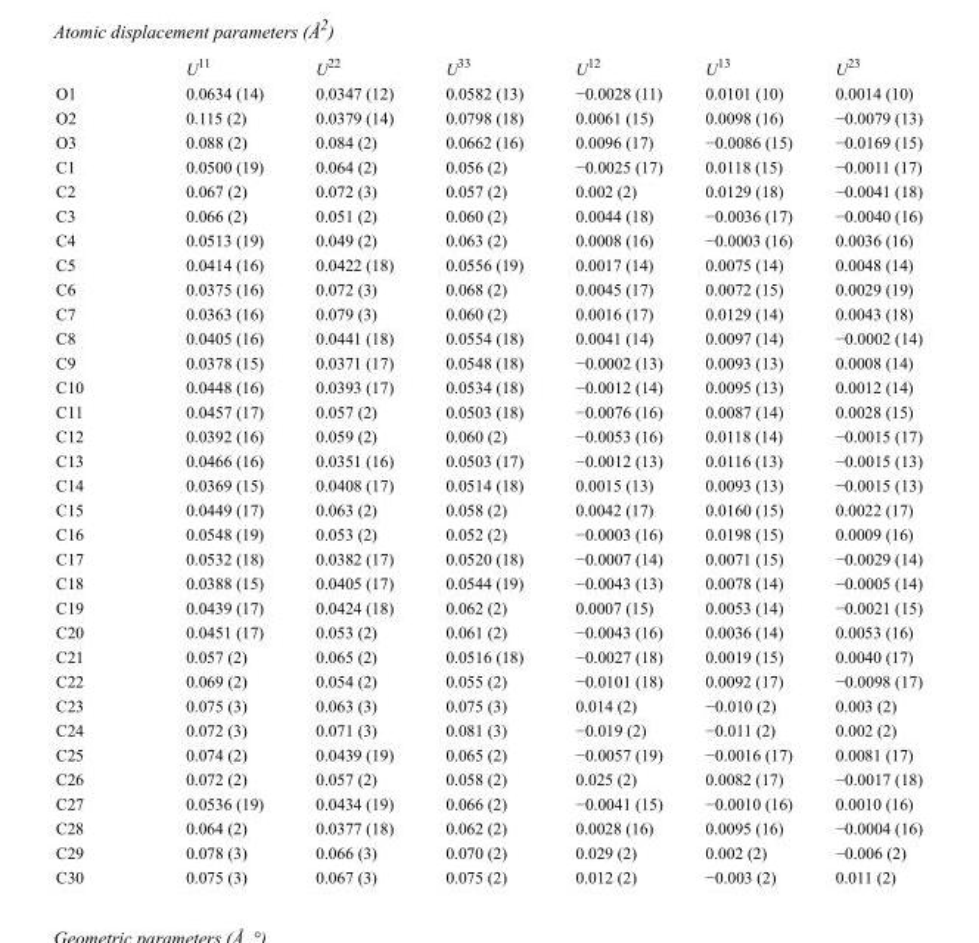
<table><thead><tr><td></td><td>U<sup>11</sup></td><td>U<sup>22</sup></td><td>U<sup>33</sup></td><td>U<sup>12</sup></td><td>U<sup>13</sup></td><td>U<sup>23</sup></td></tr></thead><tbody><tr><td>O1</td><td>0.0634 (14)</td><td>0.0347 (12)</td><td>0.0582 (13)</td><td>−0.0028 (11)</td><td>0.0101 (10)</td><td>0.0014 (10)</td></tr><tr><td>O2</td><td>0.115 (2)</td><td>0.0379 (14)</td><td>0.0798 (18)</td><td>0.0061 (15)</td><td>0.0098 (16)</td><td>−0.0079 (13)</td></tr><tr><td>O3</td><td>0.088 (2)</td><td>0.084 (2)</td><td>0.0662 (16)</td><td>0.0096 (17)</td><td>−0.0086 (15)</td><td>−0.0169 (15)</td></tr><tr><td>C1</td><td>0.0500 (19)</td><td>0.064 (2)</td><td>0.056 (2)</td><td>−0.0025 (17)</td><td>0.0118 (15)</td><td>−0.0011 (17)</td></tr><tr><td>C2</td><td>0.067 (2)</td><td>0.072 (3)</td><td>0.057 (2)</td><td>0.002 (2)</td><td>0.0129 (18)</td><td>−0.0041 (18)</td></tr><tr><td>C3</td><td>0.066 (2)</td><td>0.051 (2)</td><td>0.060 (2)</td><td>0.0044 (18)</td><td>−0.0036 (17)</td><td>−0.0040 (16)</td></tr><tr><td>C4</td><td>0.0513 (19)</td><td>0.049 (2)</td><td>0.063 (2)</td><td>0.0008 (16)</td><td>−0.0003 (16)</td><td>0.0036 (16)</td></tr><tr><td>C5</td><td>0.0414 (16)</td><td>0.0422 (18)</td><td>0.0556 (19)</td><td>0.0017 (14)</td><td>0.0075 (14)</td><td>0.0048 (14)</td></tr><tr><td>C6</td><td>0.0375 (16)</td><td>0.072 (3)</td><td>0.068 (2)</td><td>0.0045 (17)</td><td>0.0072 (15)</td><td>0.0029 (19)</td></tr><tr><td>C7</td><td>0.0363 (16)</td><td>0.079 (3)</td><td>0.060 (2)</td><td>0.0016 (17)</td><td>0.0129 (14)</td><td>0.0043 (18)</td></tr><tr><td>C8</td><td>0.0405 (16)</td><td>0.0441 (18)</td><td>0.0554 (18)</td><td>0.0041 (14)</td><td>0.0097 (14)</td><td>−0.0002 (14)</td></tr><tr><td>C9</td><td>0.0378 (15)</td><td>0.0371 (17)</td><td>0.0548 (18)</td><td>−0.0002 (13)</td><td>0.0093 (13)</td><td>0.0008 (14)</td></tr><tr><td>C10</td><td>0.0448 (16)</td><td>0.0393 (17)</td><td>0.0534 (18)</td><td>−0.0012 (14)</td><td>0.0095 (13)</td><td>0.0012 (14)</td></tr><tr><td>C11</td><td>0.0457 (17)</td><td>0.057 (2)</td><td>0.0503 (18)</td><td>−0.0076 (16)</td><td>0.0087 (14)</td><td>0.0028 (15)</td></tr><tr><td>C12</td><td>0.0392 (16)</td><td>0.059 (2)</td><td>0.060 (2)</td><td>−0.0053 (16)</td><td>0.0118 (14)</td><td>−0.0015 (17)</td></tr><tr><td>C13</td><td>0.0466 (16)</td><td>0.0351 (16)</td><td>0.0503 (17)</td><td>−0.0012 (13)</td><td>0.0116 (13)</td><td>−0.0015 (13)</td></tr><tr><td>C14</td><td>0.0369 (15)</td><td>0.0408 (17)</td><td>0.0514 (18)</td><td>0.0015 (13)</td><td>0.0093 (13)</td><td>−0.0015 (13)</td></tr><tr><td>C15</td><td>0.0449 (17)</td><td>0.063 (2)</td><td>0.058 (2)</td><td>0.0042 (17)</td><td>0.0160 (15)</td><td>0.0022 (17)</td></tr><tr><td>C16</td><td>0.0548 (19)</td><td>0.053 (2)</td><td>0.052 (2)</td><td>−0.0003 (16)</td><td>0.0198 (15)</td><td>0.0009 (16)</td></tr><tr><td>C17</td><td>0.0532 (18)</td><td>0.0382 (17)</td><td>0.0520 (18)</td><td>−0.0007 (14)</td><td>0.0071 (15)</td><td>−0.0029 (14)</td></tr><tr><td>C18</td><td>0.0388 (15)</td><td>0.0405 (17)</td><td>0.0544 (19)</td><td>−0.0043 (13)</td><td>0.0078 (14)</td><td>−0.0005 (14)</td></tr><tr><td>C19</td><td>0.0439 (17)</td><td>0.0424 (18)</td><td>0.062 (2)</td><td>0.0007 (15)</td><td>0.0053 (14)</td><td>−0.0021 (15)</td></tr><tr><td>C20</td><td>0.0451 (17)</td><td>0.053 (2)</td><td>0.061 (2)</td><td>−0.0043 (16)</td><td>0.0036 (14)</td><td>0.0053 (16)</td></tr><tr><td>C21</td><td>0.057 (2)</td><td>0.065 (2)</td><td>0.0516 (18)</td><td>−0.0027 (18)</td><td>0.0019 (15)</td><td>0.0040 (17)</td></tr><tr><td>C22</td><td>0.069 (2)</td><td>0.054 (2)</td><td>0.055 (2)</td><td>−0.0101 (18)</td><td>0.0092 (17)</td><td>−0.0098 (17)</td></tr><tr><td>C23</td><td>0.075 (3)</td><td>0.063 (3)</td><td>0.075 (3)</td><td>0.014 (2)</td><td>−0.010 (2)</td><td>0.003 (2)</td></tr><tr><td>C24</td><td>0.072 (3)</td><td>0.071 (3)</td><td>0.081 (3)</td><td>−0.019 (2)</td><td>−0.011 (2)</td><td>0.002 (2)</td></tr><tr><td>C25</td><td>0.074 (2)</td><td>0.0439 (19)</td><td>0.065 (2)</td><td>−0.0057 (19)</td><td>−0.0016 (17)</td><td>0.0081 (17)</td></tr><tr><td>C26</td><td>0.072 (2)</td><td>0.057 (2)</td><td>0.058 (2)</td><td>0.025 (2)</td><td>0.0082 (17)</td><td>−0.0017 (18)</td></tr><tr><td>C27</td><td>0.0536 (19)</td><td>0.0434 (19)</td><td>0.066 (2)</td><td>−0.0041 (15)</td><td>−0.0010 (16)</td><td>0.0010 (16)</td></tr><tr><td>C28</td><td>0.064 (2)</td><td>0.0377 (18)</td><td>0.062 (2)</td><td>0.0028 (16)</td><td>0.0095 (16)</td><td>−0.0004 (16)</td></tr><tr><td>C29</td><td>0.078 (3)</td><td>0.066 (3)</td><td>0.070 (2)</td><td>0.029 (2)</td><td>0.002 (2)</td><td>−0.006 (2)</td></tr><tr><td>C30</td><td>0.075 (3)</td><td>0.067 (3)</td><td>0.075 (2)</td><td>0.012 (2)</td><td>−0.003 (2)</td><td>0.011 (2)</td></tr></tbody></table>